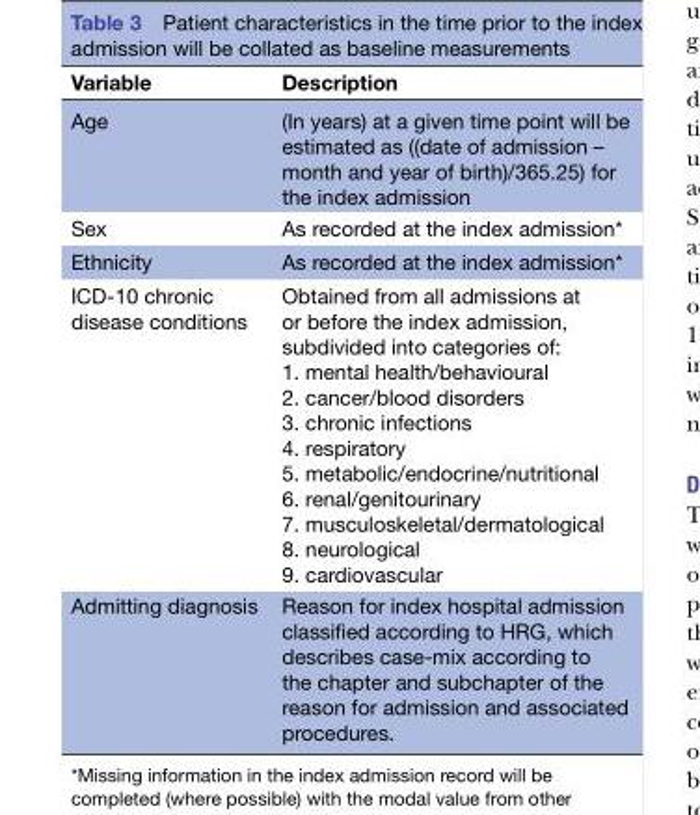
<table><thead><tr><td>Variable</td><td>Description</td></tr></thead><tbody><tr><td>Age</td><td>(In years) at a given time point will be estimated as ((date of admission – month and year of birth)/365.25) for the index admission</td></tr><tr><td>Sex</td><td>As recorded at the index admission*</td></tr><tr><td>Ethnicity</td><td>As recorded at the index admission*</td></tr><tr><td>ICD-10 chronic disease conditions</td><td>Obtained from all admissions at or before the index admission, subdivided into categories of: 1. mental health/behavioural 2. cancer/blood disorders 3. chronic infections 4. respiratory 5. metabolic/endocrine/nutritional 6. renal/genitourinary 7. musculoskeletal/dermatological 8. neurological 9. cardiovascular</td></tr><tr><td>Admitting diagnosis</td><td>Reason for index hospital admission classified according to HRG, which describes case-mix according to the chapter and subchapter of the reason for admission and associated procedures.</td></tr></tbody></table>